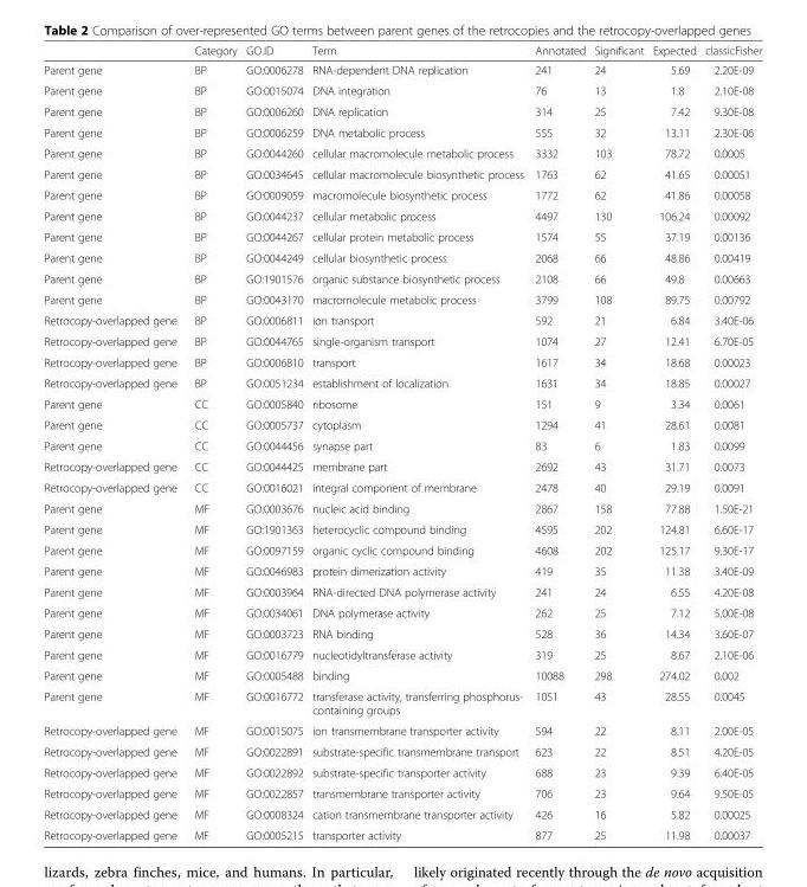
<table><thead><tr><td></td><td>Category</td><td>GO.ID</td><td>Term</td><td>Annotated</td><td>Significant</td><td>Expected</td><td>classicFisher</td></tr></thead><tbody><tr><td>Parent gene</td><td>BP</td><td>GO:0006278</td><td>RNA-dependent DNA replication</td><td>241</td><td>24</td><td>5.69</td><td>2.20E-09</td></tr><tr><td>Parent gene</td><td>BP</td><td>GO:0015074</td><td>DNA integration</td><td>76</td><td>13</td><td>1.8</td><td>2.10E-08</td></tr><tr><td>Parent gene</td><td>BP</td><td>GO:0006260</td><td>DNA replication</td><td>314</td><td>25</td><td>7.42</td><td>9.30E-08</td></tr><tr><td>Parent gene</td><td>BP</td><td>GO:0006259</td><td>DNA metabolic process</td><td>555</td><td>32</td><td>13.11</td><td>2.30E-06</td></tr><tr><td>Parent gene</td><td>BP</td><td>GO:0044260</td><td>cellular macromolecule metabolic process</td><td>3332</td><td>103</td><td>78.72</td><td>0.0005</td></tr><tr><td>Parent gene</td><td>BP</td><td>GO:0034645</td><td>cellular macromolecule biosynthetic process</td><td>1763</td><td>62</td><td>41.65</td><td>0.00051</td></tr><tr><td>Parent gene</td><td>BP</td><td>GO:0009059</td><td>macromolecule biosynthetic process</td><td>1772</td><td>62</td><td>41.86</td><td>0.00058</td></tr><tr><td>Parent gene</td><td>BP</td><td>GO:0044237</td><td>cellular metabolic process</td><td>4497</td><td>130</td><td>106.24</td><td>0.00092</td></tr><tr><td>Parent gene</td><td>BP</td><td>GO:0044267</td><td>cellular protein metabolic process</td><td>1574</td><td>55</td><td>37.19</td><td>0.00136</td></tr><tr><td>Parent gene</td><td>BP</td><td>GO:0044249</td><td>cellular biosynthetic process</td><td>2068</td><td>66</td><td>48.86</td><td>0.00419</td></tr><tr><td>Parent gene</td><td>BP</td><td>GO:1901576</td><td>organic substance biosynthetic process</td><td>2108</td><td>66</td><td>49.8</td><td>0.00663</td></tr><tr><td>Parent gene</td><td>BP</td><td>GO:0043170</td><td>macromolecule metabolic process</td><td>3799</td><td>108</td><td>89.75</td><td>0.00792</td></tr><tr><td>Retrocopy-overlapped gene</td><td>BP</td><td>GO:0006811</td><td>ion transport</td><td>592</td><td>21</td><td>6.84</td><td>3.40E-06</td></tr><tr><td>Retrocopy-overlapped gene</td><td>BP</td><td>GO:0044765</td><td>single-organism transport</td><td>1074</td><td>27</td><td>12.41</td><td>6.70E-05</td></tr><tr><td>Retrocopy-overlapped gene</td><td>BP</td><td>GO:0006810</td><td>transport</td><td>1617</td><td>34</td><td>18.68</td><td>0.00023</td></tr><tr><td>Retrocopy-overlapped gene</td><td>BP</td><td>GO:0051234</td><td>establishment of localization</td><td>1631</td><td>34</td><td>18.85</td><td>0.00027</td></tr><tr><td>Parent gene</td><td>CC</td><td>GO:0005840</td><td>ribosome</td><td>151</td><td>9</td><td>3.34</td><td>0.0061</td></tr><tr><td>Parent gene</td><td>CC</td><td>GO:0005737</td><td>cytoplasm</td><td>1294</td><td>41</td><td>28.61</td><td>0.0081</td></tr><tr><td>Parent gene</td><td>CC</td><td>GO:0044456</td><td>synapse part</td><td>83</td><td>6</td><td>1.83</td><td>0.0099</td></tr><tr><td>Retrocopy-overlapped gene</td><td>CC</td><td>GO:0044425</td><td>membrane part</td><td>2692</td><td>43</td><td>31.71</td><td>0.0073</td></tr><tr><td>Retrocopy-overlapped gene</td><td>CC</td><td>GO:0016021</td><td>integral component of membrane</td><td>2478</td><td>40</td><td>29.19</td><td>0.0091</td></tr><tr><td>Parent gene</td><td>MF</td><td>GO:0003676</td><td>nucleic acid binding</td><td>2867</td><td>158</td><td>77.88</td><td>1.50E-21</td></tr><tr><td>Parent gene</td><td>MF</td><td>GO:1901363</td><td>heterocyclic compound binding</td><td>4595</td><td>202</td><td>124.81</td><td>6.60E-17</td></tr><tr><td>Parent gene</td><td>MF</td><td>GO:0097159</td><td>organic cyclic compound binding</td><td>4608</td><td>202</td><td>125.17</td><td>9.30E-17</td></tr><tr><td>Parent gene</td><td>MF</td><td>GO:0046983</td><td>protein dimerization activity</td><td>419</td><td>35</td><td>11.38</td><td>3.40E-09</td></tr><tr><td>Parent gene</td><td>MF</td><td>GO:0003964</td><td>RNA-directed DNA polymerase activity</td><td>241</td><td>24</td><td>6.55</td><td>4.20E-08</td></tr><tr><td>Parent gene</td><td>MF</td><td>GO:0034061</td><td>DNA polymerase activity</td><td>262</td><td>25</td><td>7.12</td><td>5.00E-08</td></tr><tr><td>Parent gene</td><td>MF</td><td>GO:0003723</td><td>RNA binding</td><td>528</td><td>36</td><td>14.34</td><td>3.60E-07</td></tr><tr><td>Parent gene</td><td>MF</td><td>GO:0016779</td><td>nucleotidyltransferase activity</td><td>319</td><td>25</td><td>8.67</td><td>2.10E-06</td></tr><tr><td>Parent gene</td><td>MF</td><td>GO:0005488</td><td>binding</td><td>10088</td><td>298</td><td>274.02</td><td>0.002</td></tr><tr><td>Parent gene</td><td>MF</td><td>GO:0016772</td><td>transferase activity, transferring phosphorus- containing groups</td><td>1051</td><td>43</td><td>28.55</td><td>0.0045</td></tr><tr><td>Retrocopy-overlapped gene</td><td>MF</td><td>GO:0015075</td><td>ion transmembrane transporter activity</td><td>594</td><td>22</td><td>8.11</td><td>2.00E-05</td></tr><tr><td>Retrocopy-overlapped gene</td><td>MF</td><td>GO:0022891</td><td>substrate-specific transmembrane transport</td><td>623</td><td>22</td><td>8.51</td><td>4.20E-05</td></tr><tr><td>Retrocopy-overlapped gene</td><td>MF</td><td>GO:0022892</td><td>substrate-specific transporter activity</td><td>688</td><td>23</td><td>9.39</td><td>6.40E-05</td></tr><tr><td>Retrocopy-overlapped gene</td><td>MF</td><td>GO:0022857</td><td>transmembrane transporter activity</td><td>706</td><td>23</td><td>9.64</td><td>9.50E-05</td></tr><tr><td>Retrocopy-overlapped gene</td><td>MF</td><td>GO:0008324</td><td>cation transmembrane transporter activity</td><td>426</td><td>16</td><td>5.82</td><td>0.00025</td></tr><tr><td>Retrocopy-overlapped gene</td><td>MF</td><td>GO:0005215</td><td>transporter activity</td><td>877</td><td>25</td><td>11.98</td><td>0.00037</td></tr></tbody></table>